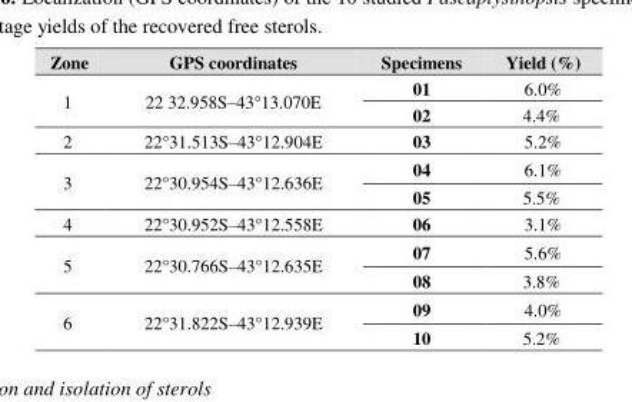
<table><thead><tr><td>Zone</td><td>GPS coordinates</td><td>Specimens</td><td>Yield (%)</td></tr></thead><tbody><tr><td rowspan="2">1</td><td rowspan="2">22 32.958S–43°13.070E</td><td>01</td><td>6.0%</td></tr><tr><td>02</td><td>4.4%</td></tr><tr><td>2</td><td>22°31.513S–43°12.904E</td><td>03</td><td>5.2%</td></tr><tr><td rowspan="2">3</td><td rowspan="2">22°30.954S–43°12.636E</td><td>04</td><td>6.1%</td></tr><tr><td>05</td><td>5.5%</td></tr><tr><td>4</td><td>22°30.952S–43°12.558E</td><td>06</td><td>3.1%</td></tr><tr><td rowspan="2">5</td><td rowspan="2">22°30.766S–43°12.635E</td><td>07</td><td>5.6%</td></tr><tr><td>08</td><td>3.8%</td></tr><tr><td rowspan="2">6</td><td rowspan="2">22°31.822S–43°12.939E</td><td>09</td><td>4.0%</td></tr><tr><td>10</td><td>5.2%</td></tr></tbody></table>